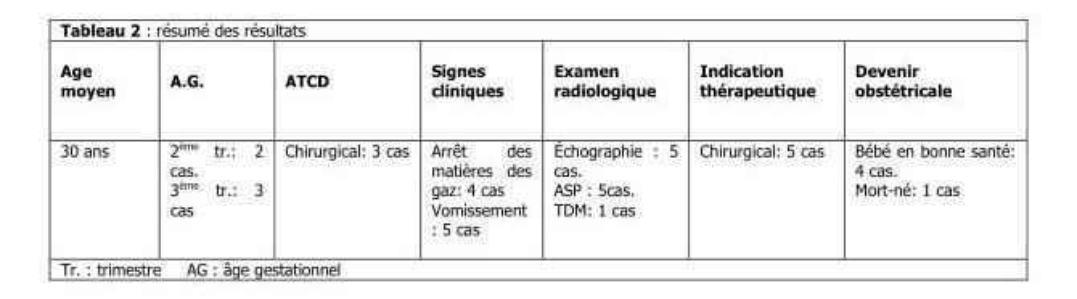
<table><thead><tr><td>Age moyen</td><td>A.G.</td><td>ATCD</td><td>Signes cliniques</td><td>Examen radiologique</td><td>Indication thérapeutique</td><td>Devenir obstétricale</td></tr></thead><tbody><tr><td>30 ans</td><td>2<sup>ème</sup> tr.: 2 cas. 3<sup>ème</sup> tr.: 3 cas</td><td>Chirurgical: 3 cas</td><td>Arrêt des matières des gaz: 4 cas Vomissement : 5 cas</td><td>Échographie : 5 cas. ASP : 5cas. TDM: 1 cas</td><td>Chirurgical: 5 cas</td><td>Bébé en bonne santé: 4 cas. Mort-né: 1 cas</td></tr></tbody></table>